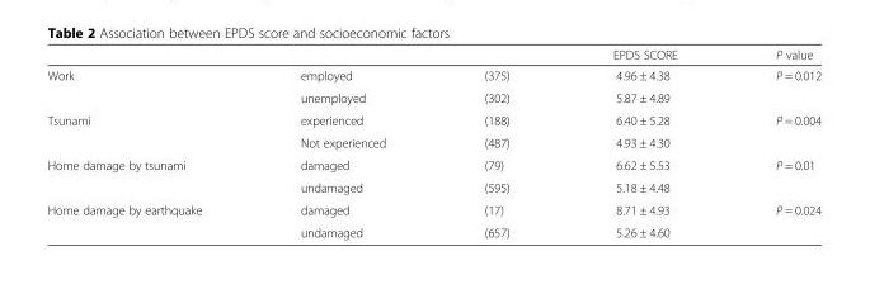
<table><thead><tr><td></td><td></td><td></td><td>EPDS SCORE</td><td>P value</td></tr></thead><tbody><tr><td rowspan="2">Work</td><td>employed</td><td>(375)</td><td>4.96 ± 4.38</td><td rowspan="2">P = 0.012</td></tr><tr><td>unemployed</td><td>(302)</td><td>5.87 ± 4.89</td></tr><tr><td rowspan="2">Tsunami</td><td>experienced</td><td>(188)</td><td>6.40 ± 5.28</td><td rowspan="2">P = 0.004</td></tr><tr><td>Not experienced</td><td>(487)</td><td>4.93 ± 4.30</td></tr><tr><td rowspan="2">Home damage by tsunami</td><td>damaged</td><td>(79)</td><td>6.62 ± 5.53</td><td rowspan="2">P = 0.01</td></tr><tr><td>undamaged</td><td>(595)</td><td>5.18 ± 4.48</td></tr><tr><td rowspan="2">Home damage by earthquake</td><td>damaged</td><td>(17)</td><td>8.71 ± 4.93</td><td rowspan="2">P = 0.024</td></tr><tr><td>undamaged</td><td>(657)</td><td>5.26 ± 4.60</td></tr></tbody></table>